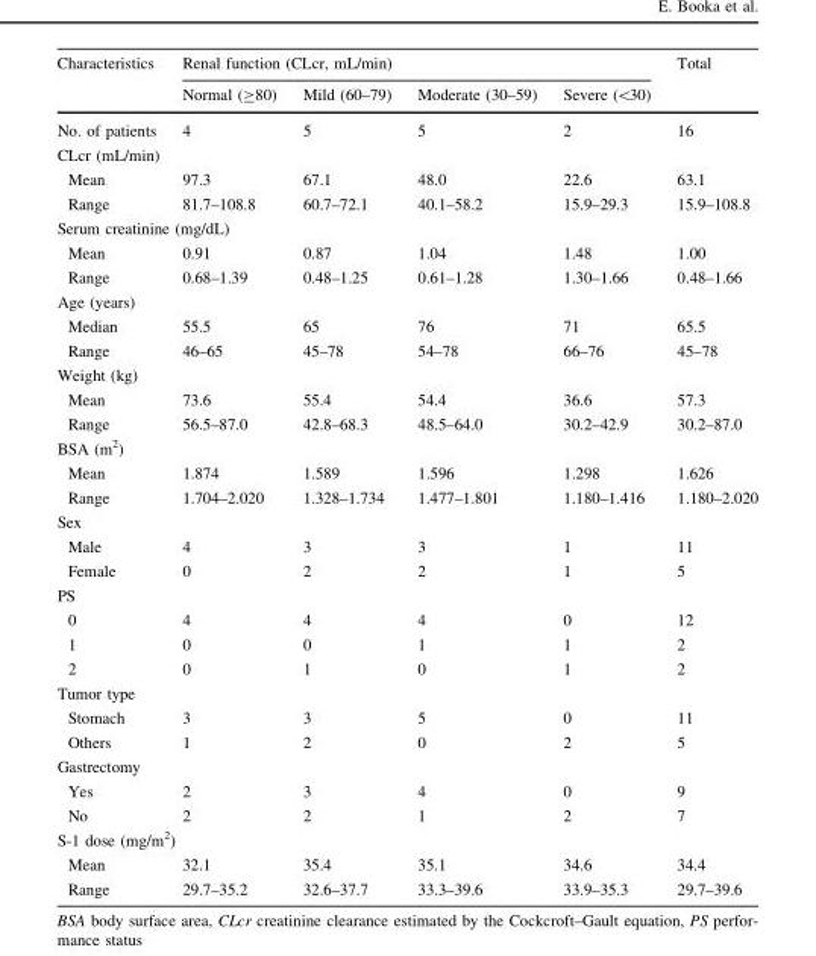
<table><thead><tr><td rowspan="2">Characteristics</td><td colspan="4">Renal function (CLcr, mL/min)</td><td rowspan="2">Total</td></tr><tr><td>Normal (≥80)</td><td>Mild (60–79)</td><td>Moderate (30–59)</td><td>Severe (&lt;30)</td></tr></thead><tbody><tr><td>No. of patients</td><td>4</td><td>5</td><td>5</td><td>2</td><td>16</td></tr><tr><td colspan="6">CLcr (mL/min)</td></tr><tr><td>Mean</td><td>97.3</td><td>67.1</td><td>48.0</td><td>22.6</td><td>63.1</td></tr><tr><td>Range</td><td>81.7–108.8</td><td>60.7–72.1</td><td>40.1–58.2</td><td>15.9–29.3</td><td>15.9–108.8</td></tr><tr><td colspan="6">Serum creatinine (mg/dL)</td></tr><tr><td>Mean</td><td>0.91</td><td>0.87</td><td>1.04</td><td>1.48</td><td>1.00</td></tr><tr><td>Range</td><td>0.68–1.39</td><td>0.48–1.25</td><td>0.61–1.28</td><td>1.30–1.66</td><td>0.48–1.66</td></tr><tr><td colspan="6">Age (years)</td></tr><tr><td>Median</td><td>55.5</td><td>65</td><td>76</td><td>71</td><td>65.5</td></tr><tr><td>Range</td><td>46–65</td><td>45–78</td><td>54–78</td><td>66–76</td><td>45–78</td></tr><tr><td colspan="6">Weight (kg)</td></tr><tr><td>Mean</td><td>73.6</td><td>55.4</td><td>54.4</td><td>36.6</td><td>57.3</td></tr><tr><td>Range</td><td>56.5–87.0</td><td>42.8–68.3</td><td>48.5–64.0</td><td>30.2–42.9</td><td>30.2–87.0</td></tr><tr><td colspan="6">BSA (m<sup>2</sup>)</td></tr><tr><td>Mean</td><td>1.874</td><td>1.589</td><td>1.596</td><td>1.298</td><td>1.626</td></tr><tr><td>Range</td><td>1.704–2.020</td><td>1.328–1.734</td><td>1.477–1.801</td><td>1.180–1.416</td><td>1.180–2.020</td></tr><tr><td colspan="6">Sex</td></tr><tr><td>Male</td><td>4</td><td>3</td><td>3</td><td>1</td><td>11</td></tr><tr><td>Female</td><td>0</td><td>2</td><td>2</td><td>1</td><td>5</td></tr><tr><td colspan="6">PS</td></tr><tr><td>0</td><td>4</td><td>4</td><td>4</td><td>0</td><td>12</td></tr><tr><td>1</td><td>0</td><td>0</td><td>1</td><td>1</td><td>2</td></tr><tr><td>2</td><td>0</td><td>1</td><td>0</td><td>1</td><td>2</td></tr><tr><td colspan="6">Tumor type</td></tr><tr><td>Stomach</td><td>3</td><td>3</td><td>5</td><td>0</td><td>11</td></tr><tr><td>Others</td><td>1</td><td>2</td><td>0</td><td>2</td><td>5</td></tr><tr><td colspan="6">Gastrectomy</td></tr><tr><td>Yes</td><td>2</td><td>3</td><td>4</td><td>0</td><td>9</td></tr><tr><td>No</td><td>2</td><td>2</td><td>1</td><td>2</td><td>7</td></tr><tr><td colspan="6">S-1 dose (mg/m<sup>2</sup>)</td></tr><tr><td>Mean</td><td>32.1</td><td>35.4</td><td>35.1</td><td>34.6</td><td>34.4</td></tr><tr><td>Range</td><td>29.7–35.2</td><td>32.6–37.7</td><td>33.3–39.6</td><td>33.9–35.3</td><td>29.7–39.6</td></tr></tbody></table>